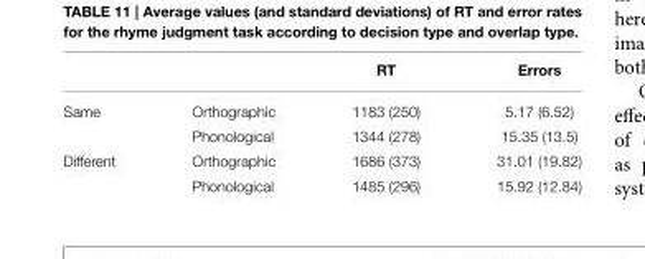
<table><thead><tr><td></td><td></td><td>RT</td><td>Errors</td></tr></thead><tbody><tr><td rowspan="2">Same</td><td>Orthographic</td><td>1183 (250)</td><td>5.17 (6.52)</td></tr><tr><td>Phonological</td><td>1344 (278)</td><td>15.35 (13.5)</td></tr><tr><td rowspan="2">Different</td><td>Orthographic</td><td>1686 (373)</td><td>31.01 (19.82)</td></tr><tr><td>Phonological</td><td>1485 (296)</td><td>15.92 (12.84)</td></tr></tbody></table>